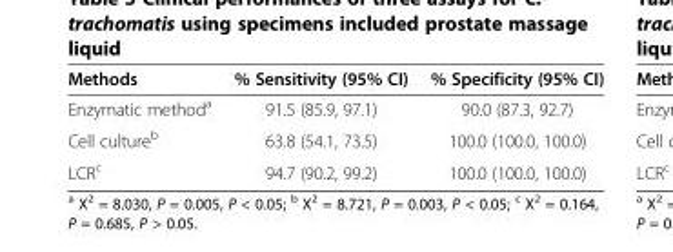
<table><thead><tr><td>Methods</td><td>% Sensitivity (95% CI)</td><td>% Specificity (95% CI)</td></tr></thead><tbody><tr><td>Enzymatic method<sup>a</sup></td><td>91.5 (85.9, 97.1)</td><td>90.0 (87.3, 92.7)</td></tr><tr><td>Cell culture<sup>b</sup></td><td>63.8 (54.1, 73.5)</td><td>100.0 (100.0, 100.0)</td></tr><tr><td>LCR<sup>c</sup></td><td>94.7 (90.2, 99.2)</td><td>100.0 (100.0, 100.0)</td></tr></tbody></table>